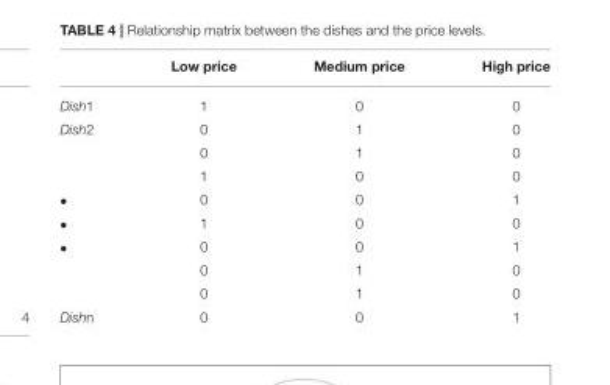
<table><thead><tr><td></td><td>Low price</td><td>Medium price</td><td>High price</td></tr></thead><tbody><tr><td>Dish1</td><td>1</td><td>0</td><td>0</td></tr><tr><td rowspan="3">Dish2</td><td>0</td><td>1</td><td>0</td></tr><tr><td>0</td><td>1</td><td>0</td></tr><tr><td>1</td><td>0</td><td>0</td></tr><tr><td>•</td><td>0</td><td>0</td><td>1</td></tr><tr><td>•</td><td>1</td><td>0</td><td>0</td></tr><tr><td rowspan="3">•</td><td>0</td><td>0</td><td>1</td></tr><tr><td>0</td><td>1</td><td>0</td></tr><tr><td>0</td><td>1</td><td>0</td></tr><tr><td>Dishn</td><td>0</td><td>0</td><td>1</td></tr></tbody></table>